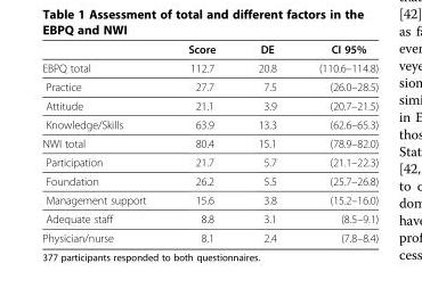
<table><thead><tr><td></td><td>Score</td><td>DE</td><td>CI 95%</td></tr></thead><tbody><tr><td>EBPQ total</td><td>112.7</td><td>20.8</td><td>(110.6–114.8)</td></tr><tr><td>Practice</td><td>27.7</td><td>7.5</td><td>(26.0–28.5)</td></tr><tr><td>Attitude</td><td>21.1</td><td>3.9</td><td>(20.7–21.5)</td></tr><tr><td>Knowledge/Skills</td><td>63.9</td><td>13.3</td><td>(62.6–65.3)</td></tr><tr><td>NWI total</td><td>80.4</td><td>15.1</td><td>(78.9–82.0)</td></tr><tr><td>Participation</td><td>21.7</td><td>5.7</td><td>(21.1–22.3)</td></tr><tr><td>Foundation</td><td>26.2</td><td>5.5</td><td>(25.7–26.8)</td></tr><tr><td>Management support</td><td>15.6</td><td>3.8</td><td>(15.2–16.0)</td></tr><tr><td>Adequate staff</td><td>8.8</td><td>3.1</td><td>(8.5–9.1)</td></tr><tr><td>Physician/nurse</td><td>8.1</td><td>2.4</td><td>(7.8–8.4)</td></tr></tbody></table>